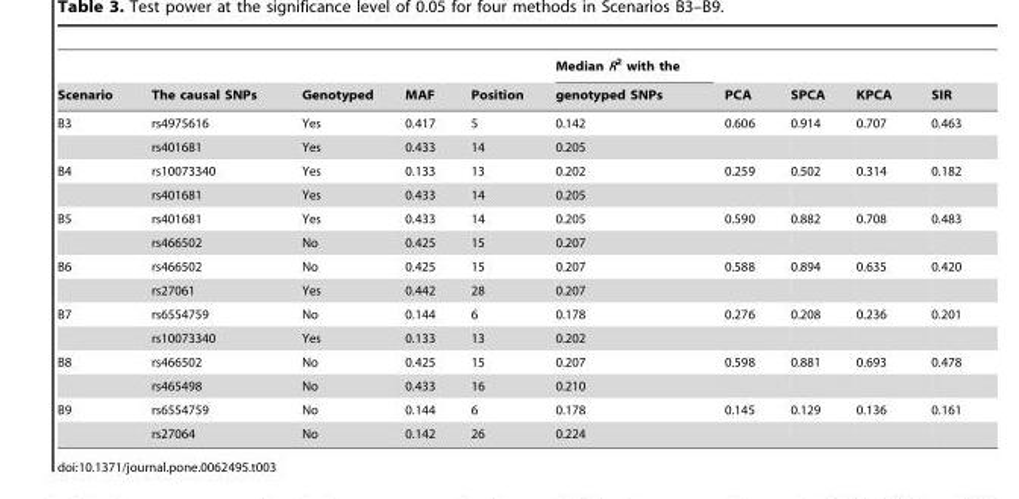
<table><thead><tr><td rowspan="2">Scenario</td><td rowspan="2">The causal SNPs</td><td rowspan="2">Genotyped</td><td rowspan="2">MAF</td><td rowspan="2">Position</td><td rowspan="2">Median R<sup>2</sup> with the genotyped SNPs</td><td rowspan="2">PCA</td><td rowspan="2">SPCA</td><td rowspan="2">KPCA</td><td rowspan="2">SIR</td></tr><tr></tr></thead><tbody><tr><td rowspan="2">B3</td><td>rs4975616</td><td>Yes</td><td>0.417</td><td>5</td><td>0.142</td><td>0.606</td><td>0.914</td><td>0.707</td><td>0.463</td></tr><tr><td>rs401681</td><td>Yes</td><td>0.433</td><td>14</td><td>0.205</td><td></td><td></td><td></td><td></td></tr><tr><td rowspan="2">B4</td><td>rs10073340</td><td>Yes</td><td>0.133</td><td>13</td><td>0.202</td><td>0.259</td><td>0.502</td><td>0.314</td><td>0.182</td></tr><tr><td>rs401681</td><td>Yes</td><td>0.433</td><td>14</td><td>0.205</td><td></td><td></td><td></td><td></td></tr><tr><td rowspan="2">B5</td><td>rs401681</td><td>Yes</td><td>0.433</td><td>14</td><td>0.205</td><td>0.590</td><td>0.882</td><td>0.708</td><td>0.483</td></tr><tr><td>rs466502</td><td>No</td><td>0.425</td><td>15</td><td>0.207</td><td></td><td></td><td></td><td></td></tr><tr><td rowspan="2">B6</td><td>rs466502</td><td>No</td><td>0.425</td><td>15</td><td>0.207</td><td>0.588</td><td>0.894</td><td>0.635</td><td>0.420</td></tr><tr><td>rs27061</td><td>Yes</td><td>0.442</td><td>28</td><td>0.207</td><td></td><td></td><td></td><td></td></tr><tr><td rowspan="2">B7</td><td>rs6554759</td><td>No</td><td>0.144</td><td>6</td><td>0.178</td><td>0.276</td><td>0.208</td><td>0.236</td><td>0.201</td></tr><tr><td>rs10073340</td><td>Yes</td><td>0.133</td><td>13</td><td>0.202</td><td></td><td></td><td></td><td></td></tr><tr><td rowspan="2">B8</td><td>rs466502</td><td>No</td><td>0.425</td><td>15</td><td>0.207</td><td>0.598</td><td>0.881</td><td>0.693</td><td>0.478</td></tr><tr><td>rs465498</td><td>No</td><td>0.433</td><td>16</td><td>0.210</td><td></td><td></td><td></td><td></td></tr><tr><td rowspan="2">B9</td><td>rs6554759</td><td>No</td><td>0.144</td><td>6</td><td>0.178</td><td>0.145</td><td>0.129</td><td>0.136</td><td>0.161</td></tr><tr><td>rs27064</td><td>No</td><td>0.142</td><td>26</td><td>0.224</td><td></td><td></td><td></td><td></td></tr></tbody></table>